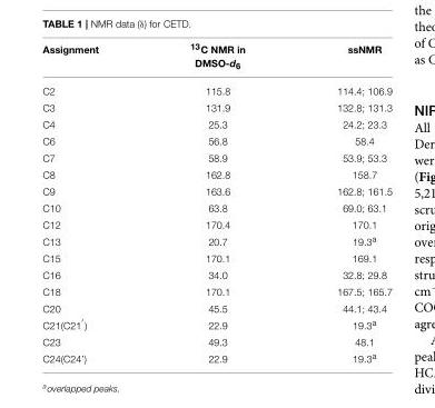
<table><thead><tr><td>Assignment</td><td><sup>13</sup>C NMR in DMSO-d<sub>6</sub></td><td>ssNMR</td></tr></thead><tbody><tr><td>C2</td><td>115.8</td><td>114.4; 106.9</td></tr><tr><td>C3</td><td>131.9</td><td>132.8; 131.3</td></tr><tr><td>C4</td><td>25.3</td><td>24.2; 23.3</td></tr><tr><td>C6</td><td>56.8</td><td>58.4</td></tr><tr><td>C7</td><td>58.9</td><td>53.9; 53.3</td></tr><tr><td>C8</td><td>162.8</td><td>158.7</td></tr><tr><td>C9</td><td>163.6</td><td>162.8; 161.5</td></tr><tr><td>C10</td><td>63.8</td><td>69.0; 63.1</td></tr><tr><td>C12</td><td>170.4</td><td>170.1</td></tr><tr><td>C13</td><td>20.7</td><td>19.3<sup>a</sup></td></tr><tr><td>C15</td><td>170.1</td><td>169.1</td></tr><tr><td>C16</td><td>34.0</td><td>32.8; 29.8</td></tr><tr><td>C18</td><td>170.1</td><td>167.5; 165.7</td></tr><tr><td>C20</td><td>45.5</td><td>44.1; 43.4</td></tr><tr><td>C21(C21 ′)</td><td>22.9</td><td>19.3<sup>a</sup></td></tr><tr><td>C23</td><td>49.3</td><td>48.1</td></tr><tr><td>C24(C24’)</td><td>22.9</td><td>19.3<sup>a</sup></td></tr></tbody></table>